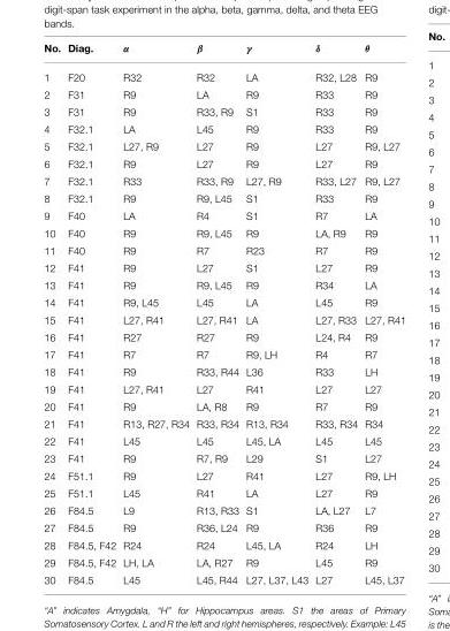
<table><thead><tr><td>No.</td><td>Diag.</td><td>α</td><td>β</td><td>γ</td><td>δ</td><td>θ</td></tr></thead><tbody><tr><td>1</td><td>F20</td><td>R32</td><td>R32</td><td>LA</td><td>R32, L28</td><td>R9</td></tr><tr><td>2</td><td>F31</td><td>R9</td><td>LA</td><td>R9</td><td>R33</td><td>R9</td></tr><tr><td>3</td><td>F31</td><td>R9</td><td>R33, R9</td><td>S1</td><td>R33</td><td>R9</td></tr><tr><td>4</td><td>F32.1</td><td>LA</td><td>L45</td><td>R9</td><td>R33</td><td>R9</td></tr><tr><td>5</td><td>F32.1</td><td>L27, R9</td><td>L27</td><td>R9</td><td>L27</td><td>R9, L27</td></tr><tr><td>6</td><td>F32.1</td><td>R9</td><td>L27</td><td>R9</td><td>L27</td><td>R9</td></tr><tr><td>7</td><td>F32.1</td><td>R33</td><td>R33, R9</td><td>L27, R9</td><td>R33, L27</td><td>R9, L27</td></tr><tr><td>8</td><td>F32.1</td><td>R9</td><td>R9, L45</td><td>S1</td><td>R33</td><td>R9</td></tr><tr><td>9</td><td>F40</td><td>LA</td><td>R4</td><td>S1</td><td>R7</td><td>LA</td></tr><tr><td>10</td><td>F40</td><td>R9</td><td>R9, L45</td><td>R9</td><td>LA, R9</td><td>R9</td></tr><tr><td>11</td><td>F40</td><td>R9</td><td>R7</td><td>R23</td><td>R7</td><td>R9</td></tr><tr><td>12</td><td>F41</td><td>R9</td><td>L27</td><td>S1</td><td>L27</td><td>R9</td></tr><tr><td>13</td><td>F41</td><td>R9</td><td>R9, L45</td><td>R9</td><td>R34</td><td>LA</td></tr><tr><td>14</td><td>F41</td><td>R9, L45</td><td>L45</td><td>LA</td><td>L45</td><td>R9</td></tr><tr><td>15</td><td>F41</td><td>L27, R41</td><td>L27, R41</td><td>LA</td><td>L27, R33</td><td>L27, R41</td></tr><tr><td>16</td><td>F41</td><td>R27</td><td>R27</td><td>R9</td><td>L24, R4</td><td>R9</td></tr><tr><td>17</td><td>F41</td><td>R7</td><td>R7</td><td>R9, LH</td><td>R4</td><td>R7</td></tr><tr><td>18</td><td>F41</td><td>R9</td><td>R33, R44</td><td>L36</td><td>R33</td><td>LH</td></tr><tr><td>19</td><td>F41</td><td>L27, R41</td><td>L27</td><td>R41</td><td>L27</td><td>L27</td></tr><tr><td>20</td><td>F41</td><td>R9</td><td>LA, R8</td><td>R9</td><td>R7</td><td>R9</td></tr><tr><td>21</td><td>F41</td><td>R13, R27, R34</td><td>R33, R34</td><td>R13, R34</td><td>R33, R34</td><td>R34</td></tr><tr><td>22</td><td>F41</td><td>L45</td><td>L45</td><td>L45, LA</td><td>L45</td><td>L45</td></tr><tr><td>23</td><td>F41</td><td>R9</td><td>R7, R9</td><td>L29</td><td>S1</td><td>L27</td></tr><tr><td>24</td><td>F51.1</td><td>R9</td><td>L27</td><td>R41</td><td>L27</td><td>R9, LH</td></tr><tr><td>25</td><td>F51.1</td><td>L45</td><td>R41</td><td>LA</td><td>L27</td><td>R9</td></tr><tr><td>26</td><td>F84.5</td><td>L9</td><td>R13, R33</td><td>S1</td><td>LA, L27</td><td>L7</td></tr><tr><td>27</td><td>F84.5</td><td>R9</td><td>R36, L24</td><td>R9</td><td>R36</td><td>R9</td></tr><tr><td>28</td><td>F84.5, F42</td><td>R24</td><td>R24</td><td>L45, LA</td><td>R24</td><td>LH</td></tr><tr><td>29</td><td>F84.5, F42</td><td>LH, LA</td><td>LA, R27</td><td>R9</td><td>L45</td><td>R9</td></tr><tr><td>30</td><td>F84.5</td><td>L45</td><td>L45, R44</td><td>L27, L37, L43</td><td>L27</td><td>L45, L37</td></tr></tbody></table>